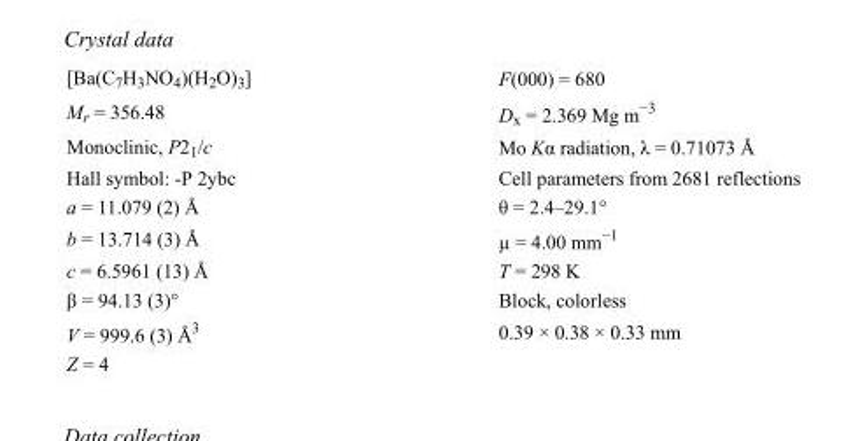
<table><tbody><tr><td>[Ba(C<sub>7</sub>H<sub>3</sub>NO<sub>4</sub>)(H<sub>2</sub>O)<sub>3</sub>]</td><td>F(000) = 680</td></tr><tr><td>M<sub>r</sub> = 356.48</td><td>D<sub>x</sub> = 2.369 Mg m<sup>−3</sup></td></tr><tr><td>Monoclinic, P2<sub>1</sub>/c</td><td>Mo Kα radiation, λ = 0.71073 Å</td></tr><tr><td>Hall symbol: -P 2ybc</td><td>Cell parameters from 2681 reflections</td></tr><tr><td>a = 11.079 (2) Å</td><td>θ = 2.4–29.1°</td></tr><tr><td>b = 13.714 (3) Å</td><td>µ = 4.00 mm<sup>−1</sup></td></tr><tr><td>c = 6.5961 (13) Å</td><td>T = 298 K</td></tr><tr><td>β = 94.13 (3)°</td><td>Block, colorless</td></tr><tr><td>V = 999.6 (3) Å<sup>3</sup></td><td>0.39 × 0.38 × 0.33 mm</td></tr><tr><td>Z = 4</td><td></td></tr></tbody></table>